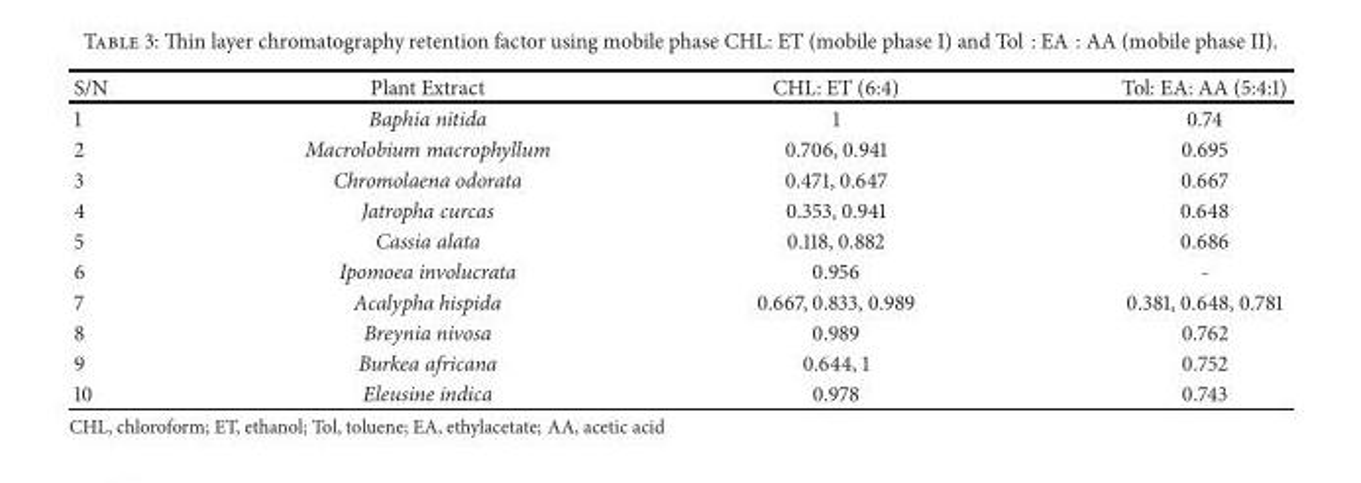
<table><thead><tr><td>S/N</td><td>Plant Extract</td><td>CHL: ET (6:4)</td><td>Tol: EA: AA (5:4:1)</td></tr></thead><tbody><tr><td>1</td><td>Baphia nitida</td><td>1</td><td>0.74</td></tr><tr><td>2</td><td>Macrolobium macrophyllum</td><td>0.706, 0.941</td><td>0.695</td></tr><tr><td>3</td><td>Chromolaena odorata</td><td>0.471, 0.647</td><td>0.667</td></tr><tr><td>4</td><td>Jatropha curcas</td><td>0.353, 0.941</td><td>0.648</td></tr><tr><td>5</td><td>Cassia alata</td><td>0.118, 0.882</td><td>0.686</td></tr><tr><td>6</td><td>Ipomoea involucrata</td><td>0.956</td><td>-</td></tr><tr><td>7</td><td>Acalypha hispida</td><td>0.667, 0.833, 0.989</td><td>0.381, 0.648, 0.781</td></tr><tr><td>8</td><td>Breynia nivosa</td><td>0.989</td><td>0.762</td></tr><tr><td>9</td><td>Burkea africana</td><td>0.644, 1</td><td>0.752</td></tr><tr><td>10</td><td>Eleusine indica</td><td>0.978</td><td>0.743</td></tr></tbody></table>